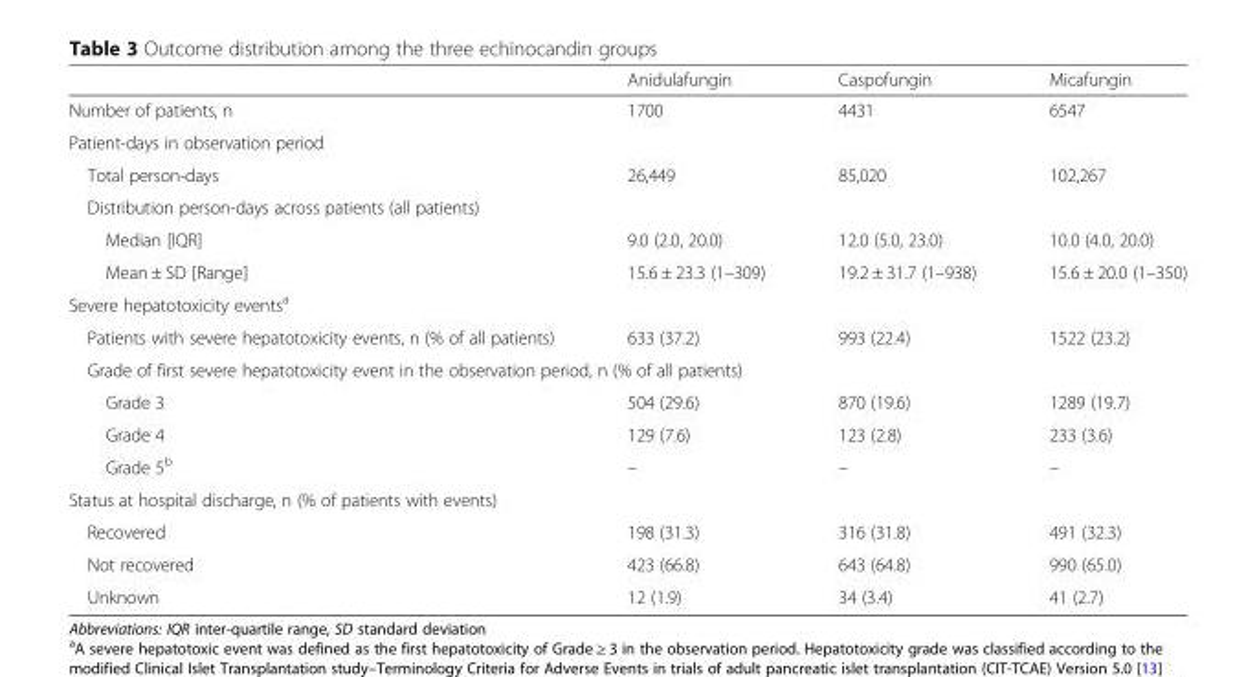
<table><thead><tr><td></td><td>Anidulafungin</td><td>Caspofungin</td><td>Micafungin</td></tr></thead><tbody><tr><td>Number of patients, n</td><td>1700</td><td>4431</td><td>6547</td></tr><tr><td colspan="4">Patient-days in observation period</td></tr><tr><td>Total person-days</td><td>26,449</td><td>85,020</td><td>102,267</td></tr><tr><td colspan="4">Distribution person-days across patients (all patients)</td></tr><tr><td>Median [IQR]</td><td>9.0 (2.0, 20.0)</td><td>12.0 (5.0, 23.0)</td><td>10.0 (4.0, 20.0)</td></tr><tr><td>Mean ± SD [Range]</td><td>15.6 ± 23.3 (1–309)</td><td>19.2 ± 31.7 (1–938)</td><td>15.6 ± 20.0 (1–350)</td></tr><tr><td colspan="4">Severe hepatotoxicity events<sup>a</sup></td></tr><tr><td>Patients with severe hepatotoxicity events, n (% of all patients)</td><td>633 (37.2)</td><td>993 (22.4)</td><td>1522 (23.2)</td></tr><tr><td colspan="4">Grade of first severe hepatotoxicity event in the observation period, n (% of all patients)</td></tr><tr><td>Grade 3</td><td>504 (29.6)</td><td>870 (19.6)</td><td>1289 (19.7)</td></tr><tr><td>Grade 4</td><td>129 (7.6)</td><td>123 (2.8)</td><td>233 (3.6)</td></tr><tr><td>Grade 5<sup>b</sup></td><td>–</td><td>–</td><td>–</td></tr><tr><td colspan="4">Status at hospital discharge, n (% of patients with events)</td></tr><tr><td>Recovered</td><td>198 (31.3)</td><td>316 (31.8)</td><td>491 (32.3)</td></tr><tr><td>Not recovered</td><td>423 (66.8)</td><td>643 (64.8)</td><td>990 (65.0)</td></tr><tr><td>Unknown</td><td>12 (1.9)</td><td>34 (3.4)</td><td>41 (2.7)</td></tr></tbody></table>